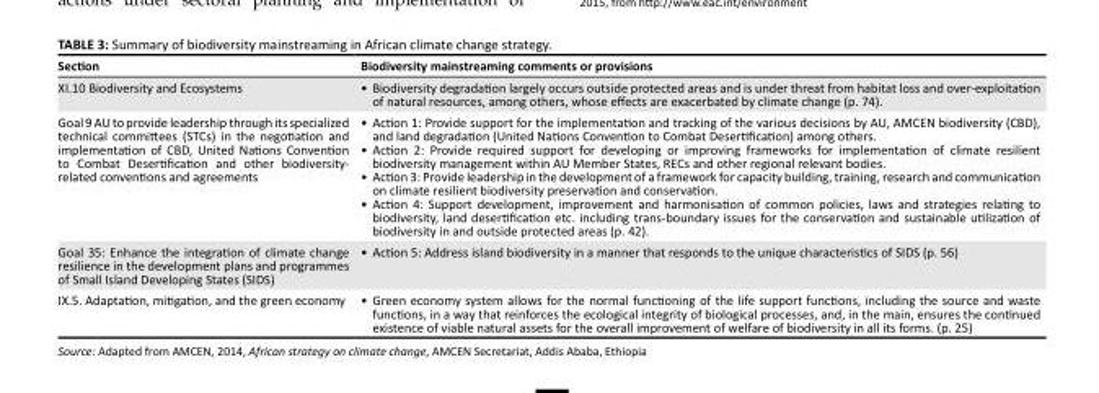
<table><thead><tr><td>Section</td><td>Biodiversity mainstreaming comments or provisions</td></tr></thead><tbody><tr><td>XI.10 Biodiversity and Ecosystems</td><td>• Biodiversity degradation largely occurs outside protected areas and is under threat from habitat loss and over-exploitation of natural resources, among others, whose effects are exacerbated by climate change (p. 74).</td></tr><tr><td>Goal 9 AU to provide leadership through its specialized technical committees (STCs) in the negotiation and implementation of CBD, United Nations Convention to Combat Desertification and other biodiversity- related conventions and agreements</td><td>• Action 1: Provide support for the implementation and tracking of the various decisions by AU, AMCEN biodiversity (CBD), and land degradation (United Nations Convention to Combat Desertification) among others. • Action 2: Provide required support for developing or improving frameworks for implementation of climate resilient biodiversity management within AU Member States, RECs and other regional relevant bodies. • Action 3: Provide leadership in the development of a framework for capacity building, training, research and communication on climate resilient biodiversity preservation and conservation. • Action 4: Support development, improvement and harmonisation of common policies, laws and strategies relating to biodiversity, land desertification etc. including trans-boundary issues for the conservation and sustainable utilization of biodiversity in and outside protected areas (p. 42).</td></tr><tr><td>Goal 35: Enhance the integration of climate change resilience in the development plans and programmes of Small Island Developing States (SIDS)</td><td>• Action 5: Address island biodiversity in a manner that responds to the unique characteristics of SIDS (p. 56)</td></tr><tr><td>IX.5. Adaptation, mitigation, and the green economy</td><td>• Green economy system allows for the normal functioning of the life support functions, including the source and waste functions, in a way that reinforces the ecological integrity of biological processes, and, in the main, ensures the continued existence of viable natural assets for the overall improvement of welfare of biodiversity in all its forms. (p. 25)</td></tr></tbody></table>